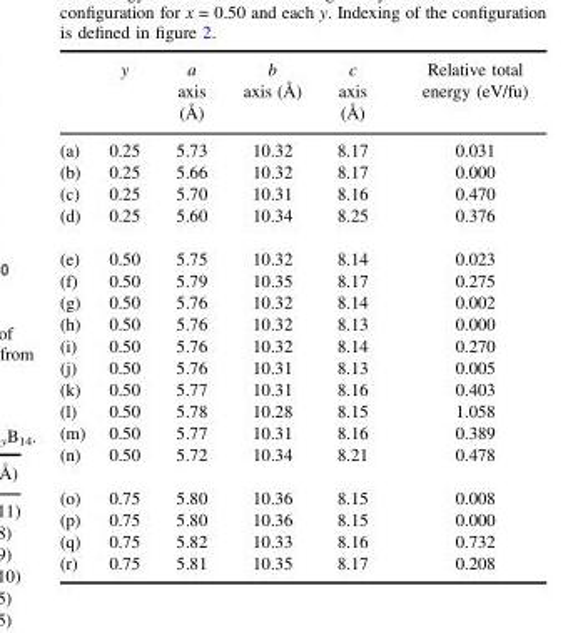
<table><thead><tr><td></td><td>y</td><td>a axis (Å)</td><td>b axis (Å)</td><td>c axis (Å)</td><td>Relative total energy (eV/fu)</td></tr></thead><tbody><tr><td>(a)</td><td>0.25</td><td>5.73</td><td>10.32</td><td>8.17</td><td>0.031</td></tr><tr><td>(b)</td><td>0.25</td><td>5.66</td><td>10.32</td><td>8.17</td><td>0.000</td></tr><tr><td>(c)</td><td>0.25</td><td>5.70</td><td>10.31</td><td>8.16</td><td>0.470</td></tr><tr><td>(d)</td><td>0.25</td><td>5.60</td><td>10.34</td><td>8.25</td><td>0.376</td></tr><tr><td>(e)</td><td>0.50</td><td>5.75</td><td>10.32</td><td>8.14</td><td>0.023</td></tr><tr><td>(f)</td><td>0.50</td><td>5.79</td><td>10.35</td><td>8.17</td><td>0.275</td></tr><tr><td>(g)</td><td>0.50</td><td>5.76</td><td>10.32</td><td>8.14</td><td>0.002</td></tr><tr><td>(h)</td><td>0.50</td><td>5.76</td><td>10.32</td><td>8.13</td><td>0.000</td></tr><tr><td>(i)</td><td>0.50</td><td>5.76</td><td>10.32</td><td>8.14</td><td>0.270</td></tr><tr><td>(j)</td><td>0.50</td><td>5.76</td><td>10.31</td><td>8.13</td><td>0.005</td></tr><tr><td>(k)</td><td>0.50</td><td>5.77</td><td>10.31</td><td>8.16</td><td>0.403</td></tr><tr><td>(l)</td><td>0.50</td><td>5.78</td><td>10.28</td><td>8.15</td><td>1.058</td></tr><tr><td>(m)</td><td>0.50</td><td>5.77</td><td>10.31</td><td>8.16</td><td>0.389</td></tr><tr><td>(n)</td><td>0.50</td><td>5.72</td><td>10.34</td><td>8.21</td><td>0.478</td></tr><tr><td>(o)</td><td>0.75</td><td>5.80</td><td>10.36</td><td>8.15</td><td>0.008</td></tr><tr><td>(p)</td><td>0.75</td><td>5.80</td><td>10.36</td><td>8.15</td><td>0.000</td></tr><tr><td>(q)</td><td>0.75</td><td>5.82</td><td>10.33</td><td>8.16</td><td>0.732</td></tr><tr><td>(r)</td><td>0.75</td><td>5.81</td><td>10.35</td><td>8.17</td><td>0.208</td></tr></tbody></table>